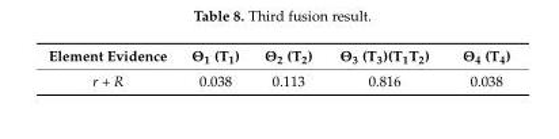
<table><thead><tr><td>Element Evidence</td><td>Θ<sub>1</sub> (T<sub>1</sub>)</td><td>Θ<sub>2</sub> (T<sub>2</sub>)</td><td>Θ<sub>3</sub> (T<sub>3</sub>)(T<sub>1</sub>T<sub>2</sub>)</td><td>Θ<sub>4</sub> (T<sub>4</sub>)</td></tr></thead><tbody><tr><td>r + R</td><td>0.038</td><td>0.113</td><td>0.816</td><td>0.038</td></tr></tbody></table>